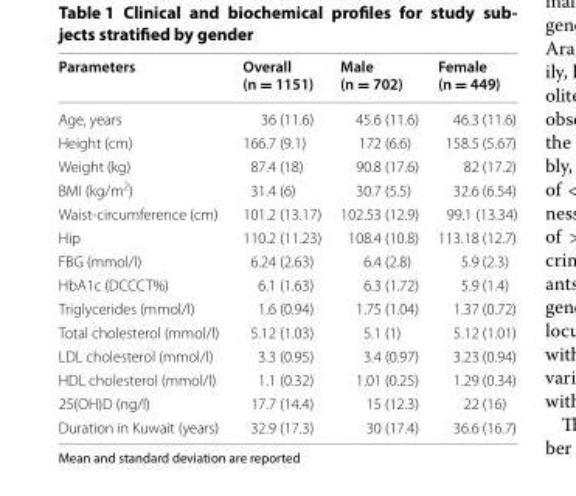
<table><thead><tr><td>Parameters</td><td>Overall (n = 1151)</td><td>Male (n = 702)</td><td>Female (n = 449)</td></tr></thead><tbody><tr><td>Age, years</td><td>36 (11.6)</td><td>45.6 (11.6)</td><td>46.3 (11.6)</td></tr><tr><td>Height (cm)</td><td>166.7 (9.1)</td><td>172 (6.6)</td><td>158.5 (5.67)</td></tr><tr><td>Weight (kg)</td><td>87.4 (18)</td><td>90.8 (17.6)</td><td>82 (17.2)</td></tr><tr><td>BMI (kg/m<sup>2</sup>)</td><td>31.4 (6)</td><td>30.7 (5.5)</td><td>32.6 (6.54)</td></tr><tr><td>Waist‑circumference (cm)</td><td>101.2 (13.17)</td><td>102.53 (12.9)</td><td>99.1 (13.34)</td></tr><tr><td>Hip</td><td>110.2 (11.23)</td><td>108.4 (10.8)</td><td>113.18 (12.7)</td></tr><tr><td>FBG (mmol/l)</td><td>6.24 (2.63)</td><td>6.4 (2.8)</td><td>5.9 (2.3)</td></tr><tr><td>HbA1c (DCCCT%)</td><td>6.1 (1.63)</td><td>6.3 (1.72)</td><td>5.9 (1.4)</td></tr><tr><td>Triglycerides (mmol/l)</td><td>1.6 (0.94)</td><td>1.75 (1.04)</td><td>1.37 (0.72)</td></tr><tr><td>Total cholesterol (mmol/l)</td><td>5.12 (1.03)</td><td>5.1 (1)</td><td>5.12 (1.01)</td></tr><tr><td>LDL cholesterol (mmol/l)</td><td>3.3 (0.95)</td><td>3.4 (0.97)</td><td>3.23 (0.94)</td></tr><tr><td>HDL cholesterol (mmol/l)</td><td>1.1 (0.32)</td><td>1.01 (0.25)</td><td>1.29 (0.34)</td></tr><tr><td>25(OH)D (ng/l)</td><td>17.7 (14.4)</td><td>15 (12.3)</td><td>22 (16)</td></tr><tr><td>Duration in Kuwait (years)</td><td>32.9 (17.3)</td><td>30 (17.4)</td><td>36.6 (16.7)</td></tr></tbody></table>